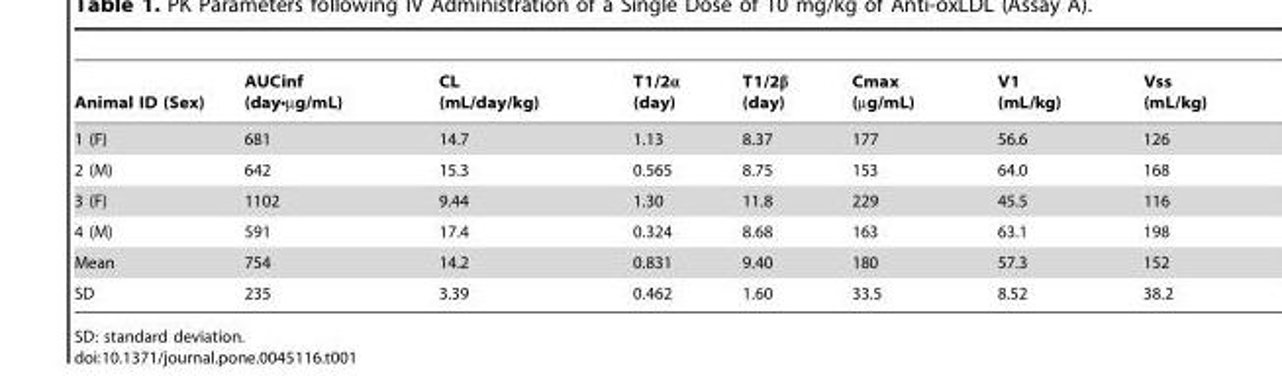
<table><thead><tr><td>Animal ID (Sex)</td><td>AUCinf (day•µg/mL)</td><td>CL (mL/day/kg)</td><td>T1/2α (day)</td><td>T1/2β (day)</td><td>Cmax (µg/mL)</td><td>V1 (mL/kg)</td><td>Vss (mL/kg)</td></tr></thead><tbody><tr><td>1 (F)</td><td>681</td><td>14.7</td><td>1.13</td><td>8.37</td><td>177</td><td>56.6</td><td>126</td></tr><tr><td>2 (M)</td><td>642</td><td>15.3</td><td>0.565</td><td>8.75</td><td>153</td><td>64.0</td><td>168</td></tr><tr><td>3 (F)</td><td>1102</td><td>9.44</td><td>1.30</td><td>11.8</td><td>229</td><td>45.5</td><td>116</td></tr><tr><td>4 (M)</td><td>591</td><td>17.4</td><td>0.324</td><td>8.68</td><td>163</td><td>63.1</td><td>198</td></tr><tr><td>Mean</td><td>754</td><td>14.2</td><td>0.831</td><td>9.40</td><td>180</td><td>57.3</td><td>152</td></tr><tr><td>SD</td><td>235</td><td>3.39</td><td>0.462</td><td>1.60</td><td>33.5</td><td>8.52</td><td>38.2</td></tr></tbody></table>